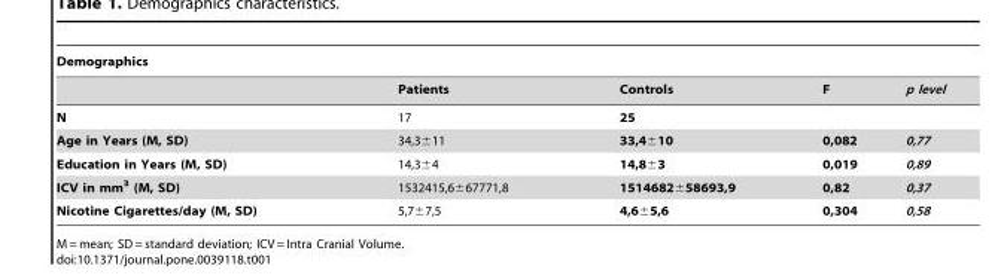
<table><thead><tr><td colspan="5">Demographics</td></tr><tr><td></td><td>Patients</td><td>Controls</td><td>F</td><td>p level</td></tr></thead><tbody><tr><td>N</td><td>17</td><td colspan="3">25</td></tr><tr><td>Age in Years (M, SD)</td><td>34,3±11</td><td>33,4±10</td><td>0,082</td><td>0,77</td></tr><tr><td>Education in Years (M, SD)</td><td>14,3±4</td><td>14,8±3</td><td>0,019</td><td>0,89</td></tr><tr><td>ICV in mm<sup>3</sup> (M, SD)</td><td>1532415,6±67771,8</td><td>1514682±58693,9</td><td>0,82</td><td>0,37</td></tr><tr><td>Nicotine Cigarettes/day (M, SD)</td><td>5,7±7,5</td><td>4,6±5,6</td><td>0,304</td><td>0,58</td></tr></tbody></table>